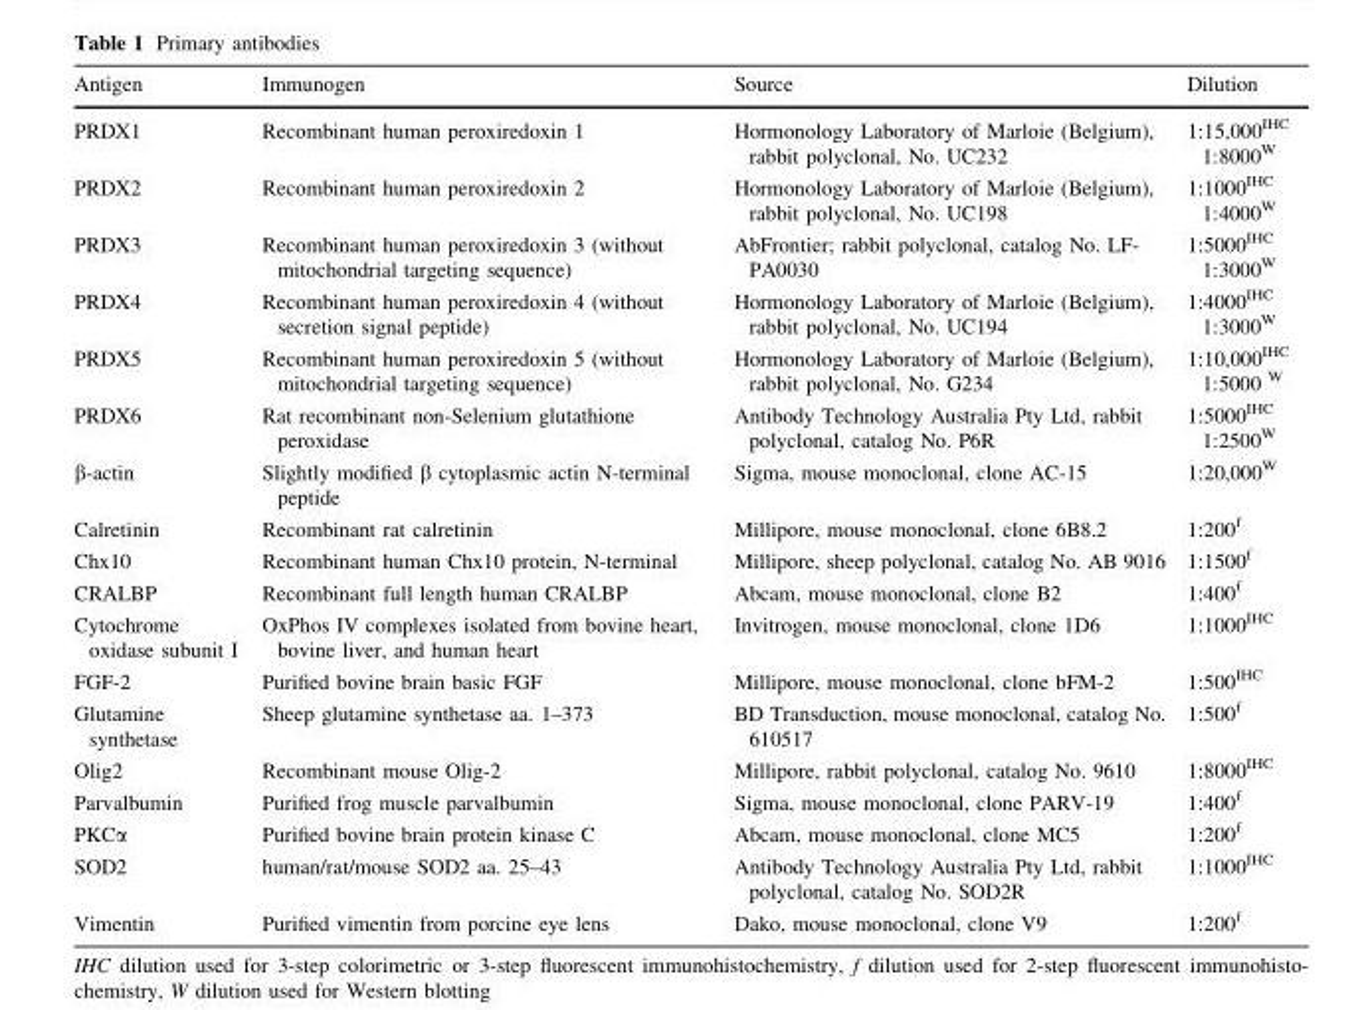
<table><thead><tr><td>Antigen</td><td>Immunogen</td><td>Source</td><td>Dilution</td></tr></thead><tbody><tr><td>PRDX1</td><td>Recombinant human peroxiredoxin 1</td><td>Hormonology Laboratory of Marloie (Belgium), rabbit polyclonal, No. UC232</td><td>1:15,000<sup>IHC</sup> 1:8000<sup>W</sup></td></tr><tr><td>PRDX2</td><td>Recombinant human peroxiredoxin 2</td><td>Hormonology Laboratory of Marloie (Belgium), rabbit polyclonal, No. UC198</td><td>1:1000<sup>IHC</sup> 1:4000<sup>W</sup></td></tr><tr><td>PRDX3</td><td>Recombinant human peroxiredoxin 3 (without mitochondrial targeting sequence)</td><td>AbFrontier; rabbit polyclonal, catalog No. LF- PA0030</td><td>1:5000<sup>IHC</sup> 1:3000<sup>W</sup></td></tr><tr><td>PRDX4</td><td>Recombinant human peroxiredoxin 4 (without secretion signal peptide)</td><td>Hormonology Laboratory of Marloie (Belgium), rabbit polyclonal, No. UC194</td><td>1:4000<sup>IHC</sup> 1:3000<sup>W</sup></td></tr><tr><td>PRDX5</td><td>Recombinant human peroxiredoxin 5 (without mitochondrial targeting sequence)</td><td>Hormonology Laboratory of Marloie (Belgium), rabbit polyclonal, No. G234</td><td>1:10,000<sup>IHC</sup> 1:5000 <sup>W</sup></td></tr><tr><td>PRDX6</td><td>Rat recombinant non-Selenium glutathione peroxidase</td><td>Antibody Technology Australia Pty Ltd, rabbit polyclonal, catalog No. P6R</td><td>1:5000<sup>IHC</sup> 1:2500<sup>W</sup></td></tr><tr><td>β-actin</td><td>Slightly modified β cytoplasmic actin N-terminal peptide</td><td>Sigma, mouse monoclonal, clone AC-15</td><td>1:20,000<sup>W</sup></td></tr><tr><td>Calretinin</td><td>Recombinant rat calretinin</td><td>Millipore, mouse monoclonal, clone 6B8.2</td><td>1:200<sup>f</sup></td></tr><tr><td>Chx10</td><td>Recombinant human Chx10 protein, N-terminal</td><td>Millipore, sheep polyclonal, catalog No. AB 9016</td><td>1:1500<sup>f</sup></td></tr><tr><td>CRALBP</td><td>Recombinant full length human CRALBP</td><td>Abcam, mouse monoclonal, clone B2</td><td>1:400<sup>f</sup></td></tr><tr><td>Cytochrome oxidase subunit I</td><td>OxPhos IV complexes isolated from bovine heart, bovine liver, and human heart</td><td>Invitrogen, mouse monoclonal, clone 1D6</td><td>1:1000<sup>IHC</sup></td></tr><tr><td>FGF-2</td><td>Purified bovine brain basic FGF</td><td>Millipore, mouse monoclonal, clone bFM-2</td><td>1:500<sup>IHC</sup></td></tr><tr><td>Glutamine synthetase</td><td>Sheep glutamine synthetase aa. 1–373</td><td>BD Transduction, mouse monoclonal, catalog No. 610517</td><td>1:500<sup>f</sup></td></tr><tr><td>Olig2</td><td>Recombinant mouse Olig-2</td><td>Millipore, rabbit polyclonal, catalog No. 9610</td><td>1:8000<sup>IHC</sup></td></tr><tr><td>Parvalbumin</td><td>Purified frog muscle parvalbumin</td><td>Sigma, mouse monoclonal, clone PARV-19</td><td>1:400<sup>f</sup></td></tr><tr><td>PKCα</td><td>Purified bovine brain protein kinase C</td><td>Abcam, mouse monoclonal, clone MC5</td><td>1:200<sup>f</sup></td></tr><tr><td>SOD2</td><td>human/rat/mouse SOD2 aa. 25–43</td><td>Antibody Technology Australia Pty Ltd, rabbit polyclonal, catalog No. SOD2R</td><td>1:1000<sup>IHC</sup></td></tr><tr><td>Vimentin</td><td>Purified vimentin from porcine eye lens</td><td>Dako, mouse monoclonal, clone V9</td><td>1:200<sup>f</sup></td></tr></tbody></table>